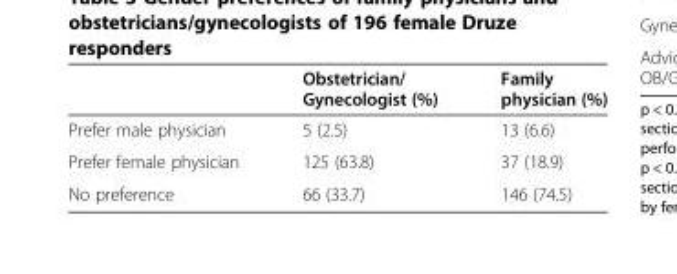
<table><thead><tr><td></td><td>Obstetrician/ Gynecologist (%)</td><td>Family physician (%)</td></tr></thead><tbody><tr><td>Prefer male physician</td><td>5 (2.5)</td><td>13 (6.6)</td></tr><tr><td>Prefer female physician</td><td>125 (63.8)</td><td>37 (18.9)</td></tr><tr><td>No preference</td><td>66 (33.7)</td><td>146 (74.5)</td></tr></tbody></table>